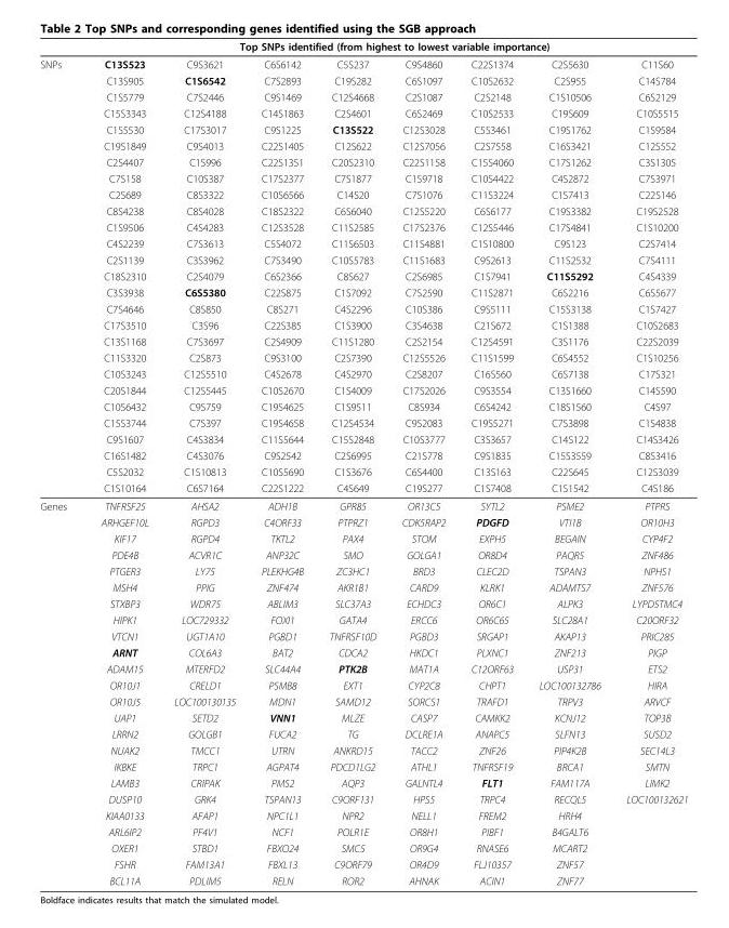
<table><thead><tr><td rowspan="2">SNPs</td><td colspan="8">Top SNPs identified (from highest to lowest variable importance)</td></tr><tr><td>C13S523</td><td>C9S3621</td><td>C6S6142</td><td>C5S237</td><td>C9S4860</td><td>C22S1374</td><td>C2S5630</td><td>C11S60</td></tr></thead><tbody><tr><td></td><td>C13S905</td><td>C1S6542</td><td>C7S2893</td><td>C19S282</td><td>C6S1097</td><td>C10S2632</td><td>C2S955</td><td>C14S784</td></tr><tr><td></td><td>C1S5779</td><td>C7S2446</td><td>C9S1469</td><td>C12S4668</td><td>C2S1087</td><td>C2S2148</td><td>C1S10506</td><td>C6S2129</td></tr><tr><td></td><td>C15S3343</td><td>C12S4188</td><td>C14S1863</td><td>C2S4601</td><td>C6S2469</td><td>C10S2533</td><td>C19S609</td><td>C10S5515</td></tr><tr><td></td><td>C1S5530</td><td>C17S3017</td><td>C9S1225</td><td>C13S522</td><td>C12S3028</td><td>C5S3461</td><td>C19S1762</td><td>C1S9584</td></tr><tr><td></td><td>C19S1849</td><td>C9S4013</td><td>C22S1405</td><td>C12S622</td><td>C12S7056</td><td>C2S7558</td><td>C16S3421</td><td>C12S552</td></tr><tr><td></td><td>C2S4407</td><td>C1S996</td><td>C22S1351</td><td>C20S2310</td><td>C22S1158</td><td>C15S4060</td><td>C17S1262</td><td>C3S1305</td></tr><tr><td></td><td>C7S158</td><td>C10S387</td><td>C17S2377</td><td>C7S1877</td><td>C1S9718</td><td>C10S4422</td><td>C4S2872</td><td>C7S3971</td></tr><tr><td></td><td>C2S689</td><td>C8S3322</td><td>C10S6566</td><td>C14S20</td><td>C7S1076</td><td>C11S3224</td><td>C1S7413</td><td>C22S146</td></tr><tr><td></td><td>C8S4238</td><td>C8S4028</td><td>C18S2322</td><td>C6S6040</td><td>C12S5220</td><td>C6S6177</td><td>C19S3382</td><td>C19S2528</td></tr><tr><td></td><td>C1S9506</td><td>C4S4283</td><td>C12S3528</td><td>C11S2585</td><td>C17S2376</td><td>C12S5446</td><td>C17S4841</td><td>C1S10200</td></tr><tr><td></td><td>C4S2239</td><td>C7S3613</td><td>C5S4072</td><td>C11S6503</td><td>C11S4881</td><td>C1S10800</td><td>C9S123</td><td>C2S7414</td></tr><tr><td></td><td>C2S1139</td><td>C3S3962</td><td>C7S3490</td><td>C10S5783</td><td>C11S1683</td><td>C9S2613</td><td>C11S2532</td><td>C7S4111</td></tr><tr><td></td><td>C18S2310</td><td>C2S4079</td><td>C6S2366</td><td>C8S627</td><td>C2S6985</td><td>C1S7941</td><td>C11S5292</td><td>C4S4339</td></tr><tr><td></td><td>C3S3938</td><td>C6S5380</td><td>C22S875</td><td>C1S7092</td><td>C7S2590</td><td>C11S2871</td><td>C6S2216</td><td>C6S5677</td></tr><tr><td></td><td>C7S4646</td><td>C8S850</td><td>C8S271</td><td>C4S2296</td><td>C10S386</td><td>C9S5111</td><td>C15S3138</td><td>C1S7427</td></tr><tr><td></td><td>C17S3510</td><td>C3S96</td><td>C22S385</td><td>C1S3900</td><td>C3S4638</td><td>C21S672</td><td>C1S1388</td><td>C10S2683</td></tr><tr><td></td><td>C13S1168</td><td>C7S3697</td><td>C2S4909</td><td>C11S1280</td><td>C2S2154</td><td>C12S4591</td><td>C3S1176</td><td>C22S2039</td></tr><tr><td></td><td>C11S3320</td><td>C2S873</td><td>C9S3100</td><td>C2S7390</td><td>C12S5526</td><td>C11S1599</td><td>C6S4552</td><td>C1S10256</td></tr><tr><td></td><td>C10S3243</td><td>C12S5510</td><td>C4S2678</td><td>C4S2970</td><td>C2S8207</td><td>C16S560</td><td>C6S7138</td><td>C17S321</td></tr><tr><td></td><td>C20S1844</td><td>C12S5445</td><td>C10S2670</td><td>C1S4009</td><td>C17S2026</td><td>C9S3554</td><td>C13S1660</td><td>C14S590</td></tr><tr><td></td><td>C10S6432</td><td>C9S759</td><td>C19S4625</td><td>C1S9511</td><td>C8S934</td><td>C6S4242</td><td>C18S1560</td><td>C4S97</td></tr><tr><td></td><td>C15S3744</td><td>C7S397</td><td>C19S4658</td><td>C12S4534</td><td>C9S2083</td><td>C19S5271</td><td>C7S3898</td><td>C1S4838</td></tr><tr><td></td><td>C9S1607</td><td>C4S3834</td><td>C11S5644</td><td>C15S2848</td><td>C10S3777</td><td>C3S3657</td><td>C14S122</td><td>C14S3426</td></tr><tr><td></td><td>C16S1482</td><td>C4S3076</td><td>C9S2542</td><td>C2S6995</td><td>C21S778</td><td>C9S1835</td><td>C15S3559</td><td>C8S3416</td></tr><tr><td></td><td>C5S2032</td><td>C1S10813</td><td>C10S5690</td><td>C1S3676</td><td>C6S4400</td><td>C13S163</td><td>C22S645</td><td>C12S3039</td></tr><tr><td></td><td>C1S10164</td><td>C6S7164</td><td>C22S1222</td><td>C4S649</td><td>C19S277</td><td>C1S7408</td><td>C1S1542</td><td>C4S186</td></tr><tr><td rowspan="24">Genes</td><td>TNFRSF25</td><td>AHSA2</td><td>ADH1B</td><td>GPR85</td><td>OR13C5</td><td>SYTL2</td><td>PSME2</td><td>PTPRS</td></tr><tr><td>ARHGEF10L</td><td>RGPD3</td><td>C4ORF33</td><td>PTPRZ1</td><td>CDK5RAP2</td><td>PDGFD</td><td>VTI1B</td><td>OR10H3</td></tr><tr><td>KIF17</td><td>RGPD4</td><td>TKTL2</td><td>PAX4</td><td>STOM</td><td>EXPH5</td><td>BEGAIN</td><td>CYP4F2</td></tr><tr><td>PDE4B</td><td>ACVR1C</td><td>ANP32C</td><td>SMO</td><td>GOLGA1</td><td>OR8D4</td><td>PAQR5</td><td>ZNF486</td></tr><tr><td>PTGER3</td><td>LY75</td><td>PLEKHG4B</td><td>ZC3HC1</td><td>BRD3</td><td>CLEC2D</td><td>TSPAN3</td><td>NPHS1</td></tr><tr><td>MSH4</td><td>PPIG</td><td>ZNF474</td><td>AKR1B1</td><td>CARD9</td><td>KLRK1</td><td>ADAMTS7</td><td>ZNF576</td></tr><tr><td>STXBP3</td><td>WDR75</td><td>ABLIM3</td><td>SLC37A3</td><td>ECHDC3</td><td>OR6C1</td><td>ALPK3</td><td>LYPD5TMC4</td></tr><tr><td>HIPK1</td><td>LOC729332</td><td>FOXI1</td><td>GATA4</td><td>ERCC6</td><td>OR6C65</td><td>SLC28A1</td><td>C20ORF32</td></tr><tr><td>VTCN1</td><td>UGT1A10</td><td>PGBD1</td><td>TNFRSF10D</td><td>PGBD3</td><td>SRGAP1</td><td>AKAP13</td><td>PRIC285</td></tr><tr><td>ARNT</td><td>COL6A3</td><td>BAT2</td><td>CDCA2</td><td>HKDC1</td><td>PLXNC1</td><td>ZNF213</td><td>PIGP</td></tr><tr><td>ADAM15</td><td>MTERFD2</td><td>SLC44A4</td><td>PTK2B</td><td>MAT1A</td><td>C12ORF63</td><td>USP31</td><td>ETS2</td></tr><tr><td>OR10J1</td><td>CRELD1</td><td>PSMB8</td><td>EXT1</td><td>CYP2C8</td><td>CHPT1</td><td>LOC100132786</td><td>HIRA</td></tr><tr><td>OR10J5</td><td>LOC100130135</td><td>MDN1</td><td>SAMD12</td><td>SORCS1</td><td>TRAFD1</td><td>TRPV3</td><td>ARVCF</td></tr><tr><td>UAP1</td><td>SETD2</td><td>VNN1</td><td>MLZE</td><td>CASP7</td><td>CAMKK2</td><td>KCNJ12</td><td>TOP3B</td></tr><tr><td>LRRN2</td><td>GOLGB1</td><td>FUCA2</td><td>TG</td><td>DCLRE1A</td><td>ANAPC5</td><td>SLFN13</td><td>SUSD2</td></tr><tr><td>NUAK2</td><td>TMCC1</td><td>UTRN</td><td>ANKRD15</td><td>TACC2</td><td>ZNF26</td><td>PIP4K2B</td><td>SEC14L3</td></tr><tr><td>IKBKE</td><td>TRPC1</td><td>AGPAT4</td><td>PDCD1LG2</td><td>ATHL1</td><td>TNFRSF19</td><td>BRCA1</td><td>SMTN</td></tr><tr><td>LAMB3</td><td>CRIPAK</td><td>PMS2</td><td>AQP3</td><td>GALNTL4</td><td>FLT1</td><td>FAM117A</td><td>LIMK2</td></tr><tr><td>DUSP10</td><td>GRK4</td><td>TSPAN13</td><td>C9ORF131</td><td>HPS5</td><td>TRPC4</td><td>RECQL5</td><td>LOC100132621</td></tr><tr><td>KIAA0133</td><td>AFAP1</td><td>NPC1L1</td><td>NPR2</td><td>NELL1</td><td>FREM2</td><td>HRH4</td><td></td></tr><tr><td>ARL6IP2</td><td>PF4V1</td><td>NCF1</td><td>POLR1E</td><td>OR8H1</td><td>PIBF1</td><td>B4GALT6</td><td></td></tr><tr><td>OXER1</td><td>STBD1</td><td>FBXO24</td><td>SMC5</td><td>OR9G4</td><td>RNASE6</td><td>MCART2</td><td></td></tr><tr><td>FSHR</td><td>FAM13A1</td><td>FBXL13</td><td>C9ORF79</td><td>OR4D9</td><td>FLJ10357</td><td>ZNF57</td><td></td></tr><tr><td>BCL11A</td><td>PDLIM5</td><td>RELN</td><td>ROR2</td><td>AHNAK</td><td>ACIN1</td><td>ZNF77</td><td></td></tr></tbody></table>